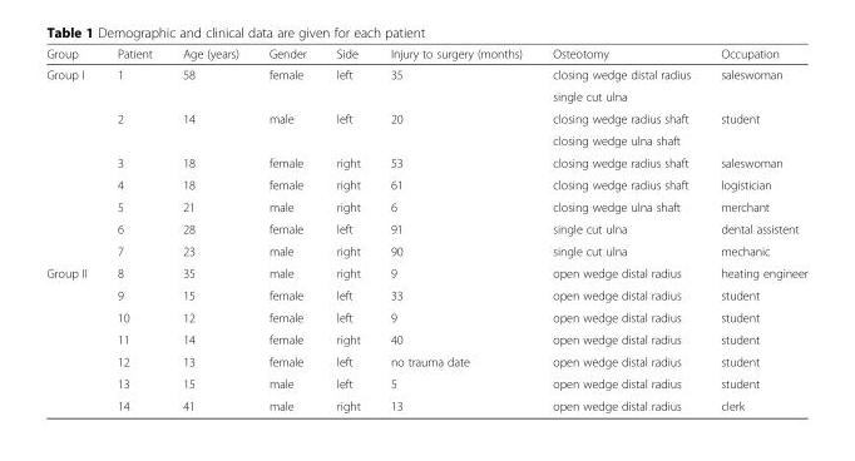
<table><thead><tr><td>Group</td><td>Patient</td><td>Age (years)</td><td>Gender</td><td>Side</td><td>Injury to surgery (months)</td><td>Osteotomy</td><td>Occupation</td></tr></thead><tbody><tr><td rowspan="9">Group I</td><td>1</td><td>58</td><td>female</td><td>left</td><td>35</td><td>closing wedge distal radius</td><td>saleswoman</td></tr><tr><td></td><td></td><td></td><td></td><td></td><td>single cut ulna</td><td></td></tr><tr><td>2</td><td>14</td><td>male</td><td>left</td><td>20</td><td>closing wedge radius shaft</td><td>student</td></tr><tr><td></td><td></td><td></td><td></td><td></td><td>closing wedge ulna shaft</td><td></td></tr><tr><td>3</td><td>18</td><td>female</td><td>right</td><td>53</td><td>closing wedge radius shaft</td><td>saleswoman</td></tr><tr><td>4</td><td>18</td><td>female</td><td>right</td><td>61</td><td>closing wedge radius shaft</td><td>logistician</td></tr><tr><td>5</td><td>21</td><td>male</td><td>right</td><td>6</td><td>closing wedge ulna shaft</td><td>merchant</td></tr><tr><td>6</td><td>28</td><td>female</td><td>left</td><td>91</td><td>single cut ulna</td><td>dental assistent</td></tr><tr><td>7</td><td>23</td><td>male</td><td>right</td><td>90</td><td>single cut ulna</td><td>mechanic</td></tr><tr><td rowspan="7">Group II</td><td>8</td><td>35</td><td>male</td><td>right</td><td>9</td><td>open wedge distal radius</td><td>heating engineer</td></tr><tr><td>9</td><td>15</td><td>female</td><td>left</td><td>33</td><td>open wedge distal radius</td><td>student</td></tr><tr><td>10</td><td>12</td><td>female</td><td>left</td><td>9</td><td>open wedge distal radius</td><td>student</td></tr><tr><td>11</td><td>14</td><td>female</td><td>right</td><td>40</td><td>open wedge distal radius</td><td>student</td></tr><tr><td>12</td><td>13</td><td>female</td><td>left</td><td>no trauma date</td><td>open wedge distal radius</td><td>student</td></tr><tr><td>13</td><td>15</td><td>male</td><td>left</td><td>5</td><td>open wedge distal radius</td><td>student</td></tr><tr><td>14</td><td>41</td><td>male</td><td>right</td><td>13</td><td>open wedge distal radius</td><td>clerk</td></tr></tbody></table>